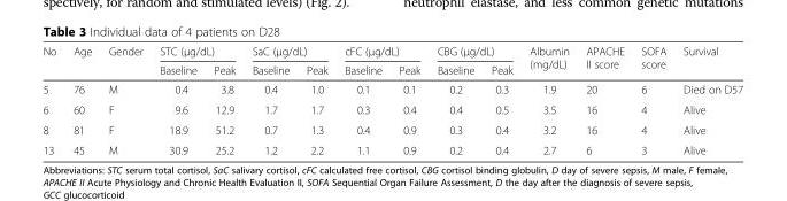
<table><thead><tr><td rowspan="2">No</td><td rowspan="2">Age</td><td rowspan="2">Gender</td><td colspan="2">STC (μg/dL)</td><td colspan="2">SaC (μg/dL)</td><td colspan="2">cFC (μg/dL)</td><td colspan="2">CBG (μg/dL)</td><td rowspan="2">Albumin (mg/dL)</td><td rowspan="2">APACHE II score</td><td rowspan="2">SOFA score</td><td rowspan="2">Survival</td></tr><tr><td>Baseline</td><td>Peak</td><td>Baseline</td><td>Peak</td><td>Baseline</td><td>Peak</td><td>Baseline</td><td>Peak</td></tr></thead><tbody><tr><td>5</td><td>76</td><td>M</td><td>0.4</td><td>3.8</td><td>0.4</td><td>1.0</td><td>0.1</td><td>0.1</td><td>0.2</td><td>0.3</td><td>1.9</td><td>20</td><td>6</td><td>Died on D57</td></tr><tr><td>6</td><td>60</td><td>F</td><td>9.6</td><td>12.9</td><td>1.7</td><td>1.7</td><td>0.3</td><td>0.4</td><td>0.4</td><td>0.5</td><td>3.5</td><td>16</td><td>4</td><td>Alive</td></tr><tr><td>8</td><td>81</td><td>F</td><td>18.9</td><td>51.2</td><td>0.7</td><td>1.3</td><td>0.4</td><td>0.9</td><td>0.3</td><td>0.4</td><td>3.2</td><td>16</td><td>4</td><td>Alive</td></tr><tr><td>13</td><td>45</td><td>M</td><td>30.9</td><td>25.2</td><td>1.2</td><td>2.2</td><td>1.1</td><td>0.9</td><td>0.2</td><td>0.4</td><td>2.7</td><td>6</td><td>3</td><td>Alive</td></tr></tbody></table>